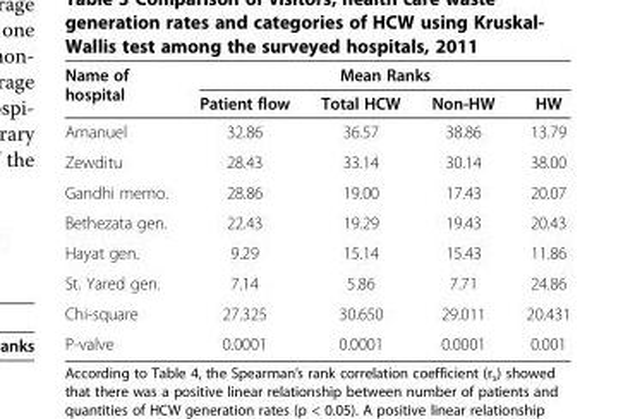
<table><thead><tr><td rowspan="2">Name of hospital</td><td colspan="4">Mean Ranks</td></tr><tr><td>Patient flow</td><td>Total HCW</td><td>Non-HW</td><td>HW</td></tr></thead><tbody><tr><td>Amanuel</td><td>32.86</td><td>36.57</td><td>38.86</td><td>13.79</td></tr><tr><td>Zewditu</td><td>28.43</td><td>33.14</td><td>30.14</td><td>38.00</td></tr><tr><td>Gandhi memo.</td><td>28.86</td><td>19.00</td><td>17.43</td><td>20.07</td></tr><tr><td>Bethezata gen.</td><td>22.43</td><td>19.29</td><td>19.43</td><td>20.43</td></tr><tr><td>Hayat gen.</td><td>9.29</td><td>15.14</td><td>15.43</td><td>11.86</td></tr><tr><td>St. Yared gen.</td><td>7.14</td><td>5.86</td><td>7.71</td><td>24.86</td></tr><tr><td>Chi-square</td><td>27.325</td><td>30.650</td><td>29.011</td><td>20.431</td></tr><tr><td>P-valve</td><td>0.0001</td><td>0.0001</td><td>0.0001</td><td>0.001</td></tr></tbody></table>